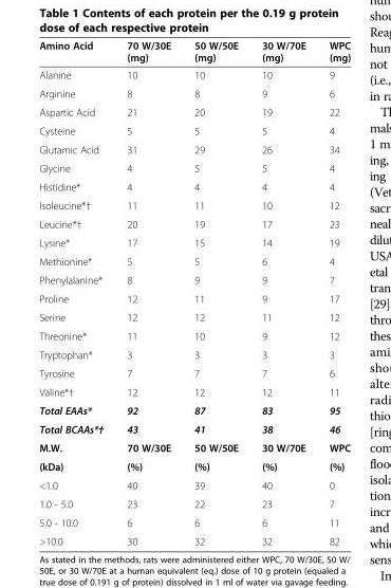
<table><thead><tr><td>Amino Acid</td><td>70 W/30E (mg)</td><td>50 W/50E (mg)</td><td>30 W/70E (mg)</td><td>WPC (mg)</td></tr></thead><tbody><tr><td>Alanine</td><td>10</td><td>10</td><td>10</td><td>9</td></tr><tr><td>Arginine</td><td>8</td><td>8</td><td>9</td><td>6</td></tr><tr><td>Aspartic Acid</td><td>21</td><td>20</td><td>19</td><td>22</td></tr><tr><td>Cysteine</td><td>5</td><td>5</td><td>5</td><td>4</td></tr><tr><td>Glutamic Acid</td><td>31</td><td>29</td><td>26</td><td>34</td></tr><tr><td>Glycine</td><td>4</td><td>5</td><td>5</td><td>4</td></tr><tr><td>Histidine*</td><td>4</td><td>4</td><td>4</td><td>4</td></tr><tr><td>Isoleucine*†</td><td>11</td><td>11</td><td>10</td><td>12</td></tr><tr><td>Leucine*†</td><td>20</td><td>19</td><td>17</td><td>23</td></tr><tr><td>Lysine*</td><td>17</td><td>15</td><td>14</td><td>19</td></tr><tr><td>Methionine*</td><td>5</td><td>5</td><td>6</td><td>4</td></tr><tr><td>Phenylalanine*</td><td>8</td><td>9</td><td>9</td><td>7</td></tr><tr><td>Proline</td><td>12</td><td>11</td><td>9</td><td>17</td></tr><tr><td>Serine</td><td>12</td><td>12</td><td>11</td><td>12</td></tr><tr><td>Threonine*</td><td>11</td><td>10</td><td>9</td><td>12</td></tr><tr><td>Tryptophan*</td><td>3</td><td>3</td><td>3</td><td>3</td></tr><tr><td>Tyrosine</td><td>7</td><td>7</td><td>7</td><td>6</td></tr><tr><td>Valine*†</td><td>12</td><td>12</td><td>12</td><td>11</td></tr><tr><td>Total EAAs*</td><td>92</td><td>87</td><td>83</td><td>95</td></tr><tr><td>Total BCAAs*†</td><td>43</td><td>41</td><td>38</td><td>46</td></tr><tr><td>M.W.</td><td>70 W/30E</td><td>50 W/50E</td><td>30 W/70E</td><td>WPC</td></tr><tr><td>(kDa)</td><td>(%)</td><td>(%)</td><td>(%)</td><td>(%)</td></tr><tr><td>&lt;1.0</td><td>40</td><td>39</td><td>40</td><td>0</td></tr><tr><td>1.0 - 5.0</td><td>23</td><td>22</td><td>23</td><td>7</td></tr><tr><td>5.0 - 10.0</td><td>6</td><td>6</td><td>6</td><td>11</td></tr><tr><td>&gt;10.0</td><td>30</td><td>32</td><td>32</td><td>82</td></tr></tbody></table>